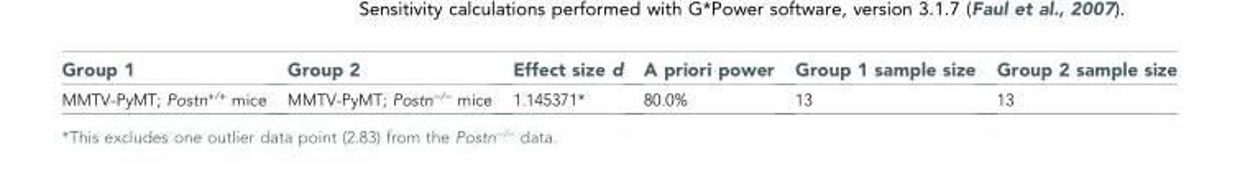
<table><thead><tr><td>Group 1</td><td>Group 2</td><td>Effect size d</td><td>A priori power</td><td>Group 1 sample size</td><td>Group 2 sample size</td></tr></thead><tbody><tr><td>MMTV-PyMT; Postn<sup>+/+</sup> mice</td><td>MMTV-PyMT; Postn<sup>−/−</sup> mice</td><td>1.145371*</td><td>80.0%</td><td>13</td><td>13</td></tr></tbody></table>